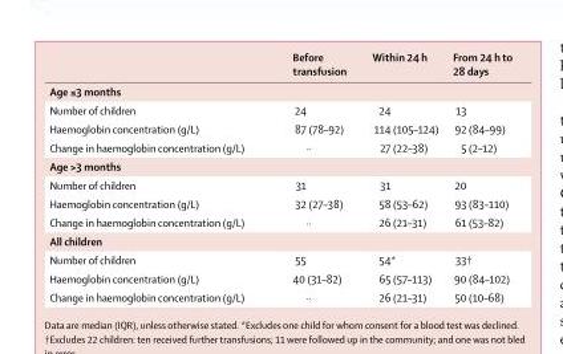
<table><thead><tr><td></td><td>Before transfusion</td><td>Within 24 h</td><td>From 24 h to 28 days</td></tr></thead><tbody><tr><td colspan="4">Age ≤3 months</td></tr><tr><td>Number of children</td><td>24</td><td>24</td><td>13</td></tr><tr><td>Haemoglobin concentration (g/L)</td><td>87 (78–92)</td><td>114 (105–124)</td><td>92 (84–99)</td></tr><tr><td>Change in haemoglobin concentration (g/L)</td><td>··</td><td>27 (22–38)</td><td>5 (2–12)</td></tr><tr><td colspan="4">Age &gt;3 months</td></tr><tr><td>Number of children</td><td>31</td><td>31</td><td>20</td></tr><tr><td>Haemoglobin concentration (g/L)</td><td>32 (27–38)</td><td>58 (53–62)</td><td>93 (83–110)</td></tr><tr><td>Change in haemoglobin concentration (g/L)</td><td>··</td><td>26 (21–31)</td><td>61 (53–82)</td></tr><tr><td colspan="4">All children</td></tr><tr><td>Number of children</td><td>55</td><td>54*</td><td>33†</td></tr><tr><td>Haemoglobin concentration (g/L)</td><td>40 (31–82)</td><td>65 (57–113)</td><td>90 (84–102)</td></tr><tr><td>Change in haemoglobin concentration (g/L)</td><td>··</td><td>26 (21–31)</td><td>50 (10–68)</td></tr></tbody></table>